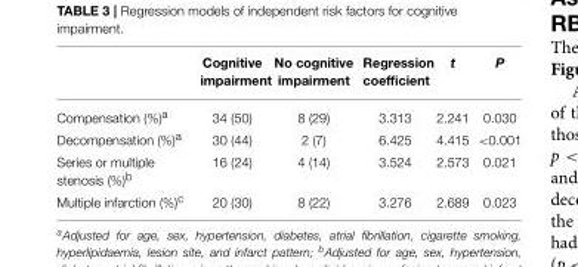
<table><thead><tr><td></td><td>Cognitive impairment</td><td>No cognitive impairment</td><td>Regression coefficient</td><td>t</td><td>P</td></tr></thead><tbody><tr><td>Compensation (%)<sup>a</sup></td><td>34 (50)</td><td>8 (29)</td><td>3.313</td><td>2.241</td><td>0.030</td></tr><tr><td>Decompensation (%)<sup>a</sup></td><td>30 (44)</td><td>2 (7)</td><td>6.425</td><td>4.415</td><td>&lt;0.001</td></tr><tr><td>Series or multiple stenosis (%)<sup>b</sup></td><td>16 (24)</td><td>4 (14)</td><td>3.524</td><td>2.573</td><td>0.021</td></tr><tr><td>Multiple infarction (%)<sup>c</sup></td><td>20 (30)</td><td>8 (22)</td><td>3.276</td><td>2.689</td><td>0.023</td></tr></tbody></table>